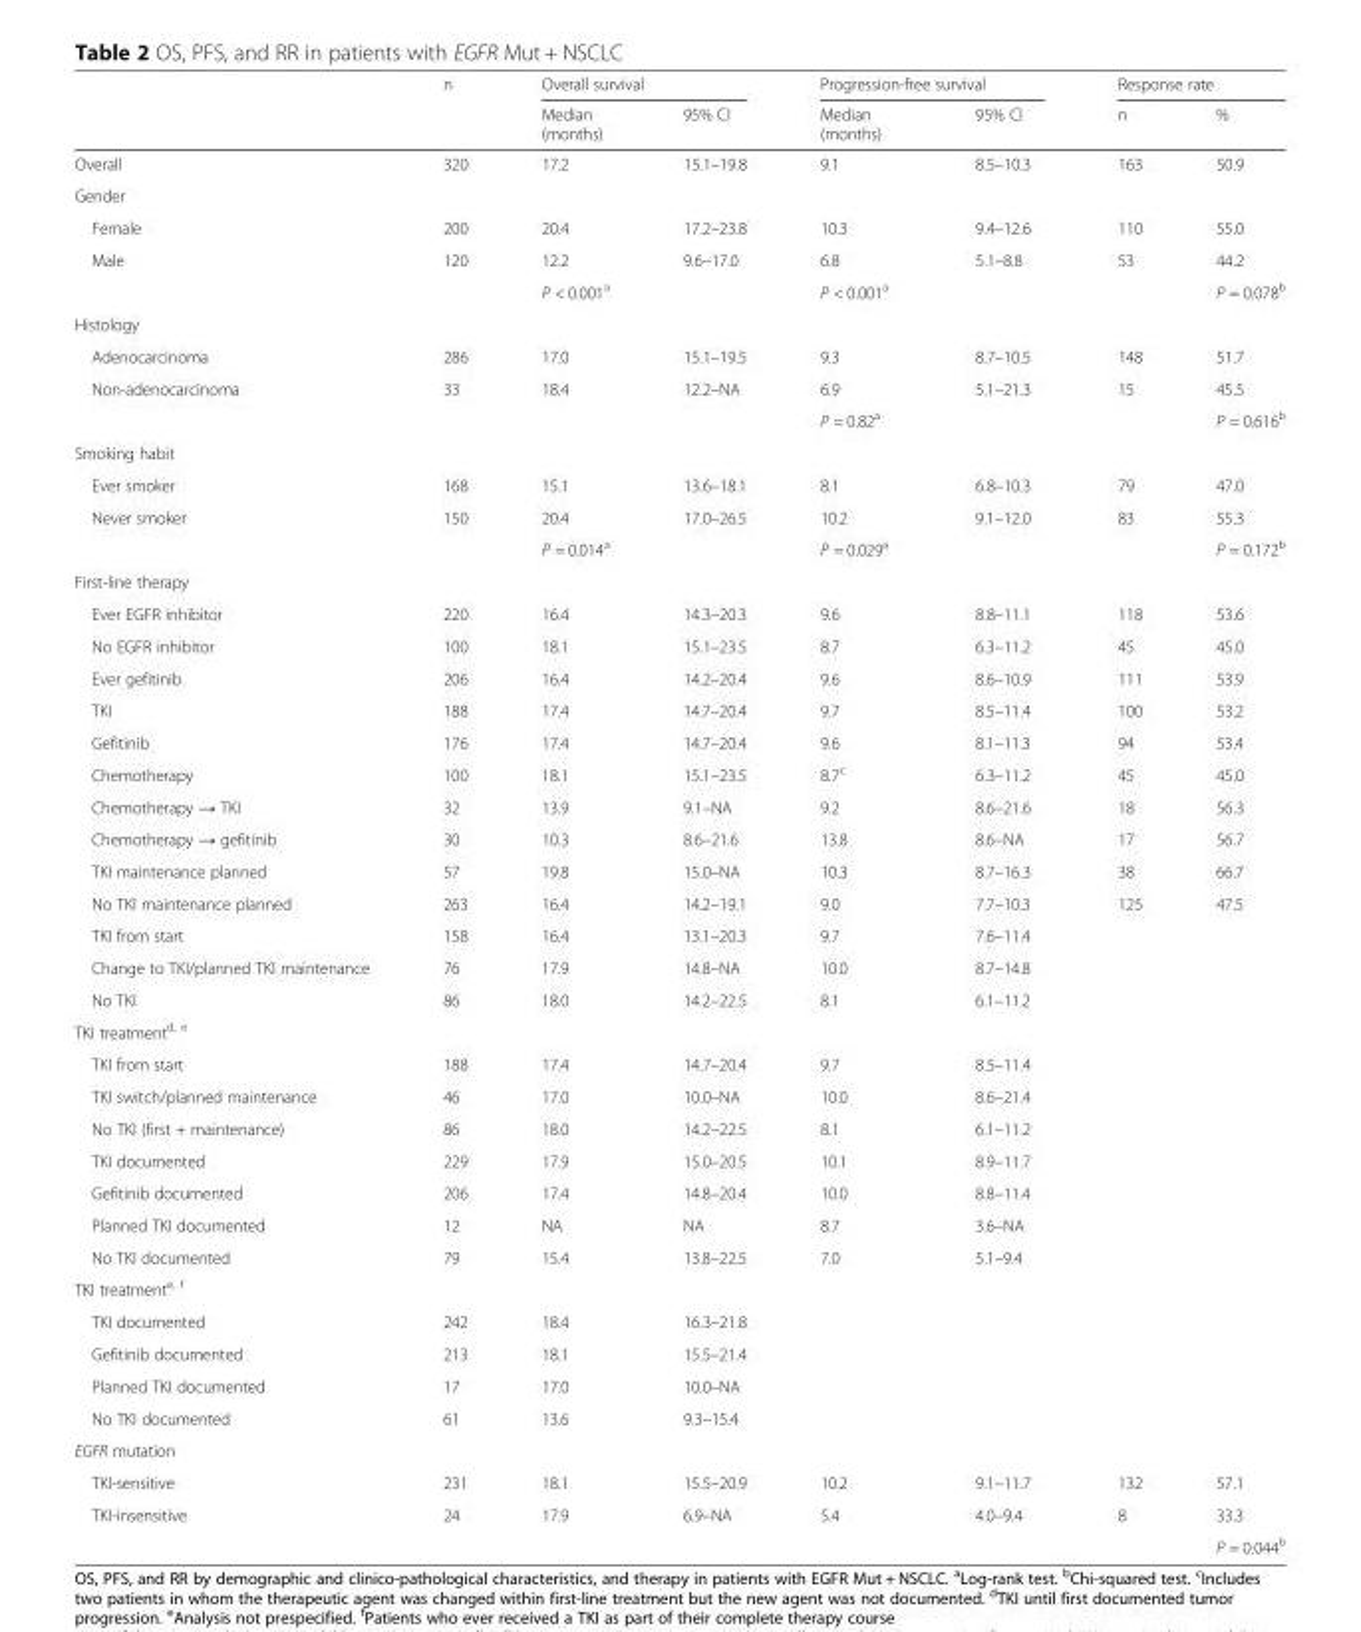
<table><thead><tr><td rowspan="2"></td><td rowspan="2">n</td><td colspan="2">Overall survival</td><td colspan="2">Progression-free survival</td><td colspan="2">Response rate</td></tr><tr><td>Median (months)</td><td>95% CI</td><td>Median (months)</td><td>95% CI</td><td>n</td><td>%</td></tr></thead><tbody><tr><td>Overall</td><td>320</td><td>17.2</td><td>15.1–19.8</td><td>9.1</td><td>8.5–10.3</td><td>163</td><td>50.9</td></tr><tr><td colspan="8">Gender</td></tr><tr><td>Female</td><td>200</td><td>20.4</td><td>17.2–23.8</td><td>10.3</td><td>9.4–12.6</td><td>110</td><td>55.0</td></tr><tr><td rowspan="2">Male</td><td>120</td><td>12.2</td><td>9.6–17.0</td><td>6.8</td><td>5.1–8.8</td><td>53</td><td>44.2</td></tr><tr><td></td><td>P &lt; 0.001<sup>a</sup></td><td></td><td>P &lt; 0.001<sup>a</sup></td><td></td><td></td><td>P = 0.078<sup>b</sup></td></tr><tr><td colspan="8">Histology</td></tr><tr><td>Adenocarcinoma</td><td>286</td><td>17.0</td><td>15.1–19.5</td><td>9.3</td><td>8.7–10.5</td><td>148</td><td>51.7</td></tr><tr><td rowspan="2">Non-adenocarcinoma</td><td>33</td><td>18.4</td><td>12.2–NA</td><td>6.9</td><td>5.1–21.3</td><td>15</td><td>45.5</td></tr><tr><td></td><td></td><td></td><td>P = 0.82<sup>a</sup></td><td></td><td></td><td>P = 0.616<sup>b</sup></td></tr><tr><td colspan="8">Smoking habit</td></tr><tr><td>Ever smoker</td><td>168</td><td>15.1</td><td>13.6–18.1</td><td>8.1</td><td>6.8–10.3</td><td>79</td><td>47.0</td></tr><tr><td rowspan="2">Never smoker</td><td>150</td><td>20.4</td><td>17.0–26.5</td><td>10.2</td><td>9.1–12.0</td><td>83</td><td>55.3</td></tr><tr><td></td><td>P = 0.014<sup>a</sup></td><td></td><td>P = 0.029<sup>a</sup></td><td></td><td></td><td>P = 0.172<sup>b</sup></td></tr><tr><td colspan="8">First-line therapy</td></tr><tr><td>Ever EGFR inhibitor</td><td>220</td><td>16.4</td><td>14.3–20.3</td><td>9.6</td><td>8.8–11.1</td><td>118</td><td>53.6</td></tr><tr><td>No EGFR inhibitor</td><td>100</td><td>18.1</td><td>15.1–23.5</td><td>8.7</td><td>6.3–11.2</td><td>45</td><td>45.0</td></tr><tr><td>Ever gefitinib</td><td>206</td><td>16.4</td><td>14.2–20.4</td><td>9.6</td><td>8.6–10.9</td><td>111</td><td>53.9</td></tr><tr><td>TKI</td><td>188</td><td>17.4</td><td>14.7–20.4</td><td>9.7</td><td>8.5–11.4</td><td>100</td><td>53.2</td></tr><tr><td>Gefitinib</td><td>176</td><td>17.4</td><td>14.7–20.4</td><td>9.6</td><td>8.1–11.3</td><td>94</td><td>53.4</td></tr><tr><td>Chemotherapy</td><td>100</td><td>18.1</td><td>15.1–23.5</td><td>8.7<sup>c</sup></td><td>6.3–11.2</td><td>45</td><td>45.0</td></tr><tr><td>Chemotherapy → TKI</td><td>32</td><td>13.9</td><td>9.1–NA</td><td>9.2</td><td>8.6–21.6</td><td>18</td><td>56.3</td></tr><tr><td>Chemotherapy → gefitinib</td><td>30</td><td>10.3</td><td>8.6–21.6</td><td>13.8</td><td>8.6–NA</td><td>17</td><td>56.7</td></tr><tr><td>TKI maintenance planned</td><td>57</td><td>19.8</td><td>15.0–NA</td><td>10.3</td><td>8.7–16.3</td><td>38</td><td>66.7</td></tr><tr><td>No TKI maintenance planned</td><td>263</td><td>16.4</td><td>14.2–19.1</td><td>9.0</td><td>7.7–10.3</td><td>125</td><td>47.5</td></tr><tr><td>TKI from start</td><td>158</td><td>16.4</td><td>13.1–20.3</td><td>9.7</td><td>7.6–11.4</td><td></td><td></td></tr><tr><td>Change to TKI/planned TKI maintenance</td><td>76</td><td>17.9</td><td>14.8–NA</td><td>10.0</td><td>8.7–14.8</td><td></td><td></td></tr><tr><td>No TKI</td><td>86</td><td>18.0</td><td>14.2–22.5</td><td>8.1</td><td>6.1–11.2</td><td></td><td></td></tr><tr><td colspan="8">TKI treatment<sup>d, e</sup></td></tr><tr><td>TKI from start</td><td>188</td><td>17.4</td><td>14.7–20.4</td><td>9.7</td><td>8.5–11.4</td><td></td><td></td></tr><tr><td>TKI switch/planned maintenance</td><td>46</td><td>17.0</td><td>10.0–NA</td><td>10.0</td><td>8.6–21.4</td><td></td><td></td></tr><tr><td>No TKI (first + maintenance)</td><td>86</td><td>18.0</td><td>14.2–22.5</td><td>8.1</td><td>6.1–11.2</td><td></td><td></td></tr><tr><td>TKI documented</td><td>229</td><td>17.9</td><td>15.0–20.5</td><td>10.1</td><td>8.9–11.7</td><td></td><td></td></tr><tr><td>Gefitinib documented</td><td>206</td><td>17.4</td><td>14.8–20.4</td><td>10.0</td><td>8.8–11.4</td><td></td><td></td></tr><tr><td>Planned TKI documented</td><td>12</td><td>NA</td><td>NA</td><td>8.7</td><td>3.6–NA</td><td></td><td></td></tr><tr><td>No TKI documented</td><td>79</td><td>15.4</td><td>13.8–22.5</td><td>7.0</td><td>5.1–9.4</td><td></td><td></td></tr><tr><td colspan="8">TKI treatment<sup>e, f</sup></td></tr><tr><td>TKI documented</td><td>242</td><td>18.4</td><td>16.3–21.8</td><td></td><td></td><td></td><td></td></tr><tr><td>Gefitinib documented</td><td>213</td><td>18.1</td><td>15.5–21.4</td><td></td><td></td><td></td><td></td></tr><tr><td>Planned TKI documented</td><td>17</td><td>17.0</td><td>10.0–NA</td><td></td><td></td><td></td><td></td></tr><tr><td>No TKI documented</td><td>61</td><td>13.6</td><td>9.3–15.4</td><td></td><td></td><td></td><td></td></tr><tr><td colspan="8">EGFR mutation</td></tr><tr><td>TKI-sensitive</td><td>231</td><td>18.1</td><td>15.5–20.9</td><td>10.2</td><td>9.1–11.7</td><td>132</td><td>57.1</td></tr><tr><td rowspan="2">TKI-insensitive</td><td>24</td><td>17.9</td><td>6.9–NA</td><td>5.4</td><td>4.0–9.4</td><td>8</td><td>33.3</td></tr><tr><td></td><td></td><td></td><td></td><td></td><td></td><td>P = 0.044<sup>b</sup></td></tr></tbody></table>